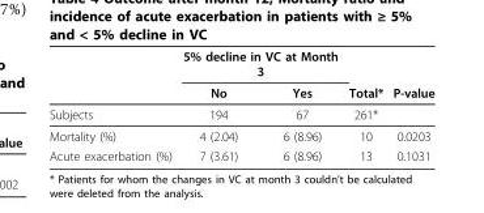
<table><thead><tr><td rowspan="2"></td><td colspan="2">5% decline in VC at Month 3</td><td rowspan="2">Total*</td><td rowspan="2">P-value</td></tr><tr><td>No</td><td>Yes</td></tr></thead><tbody><tr><td>Subjects</td><td>194</td><td>67</td><td>261*</td><td></td></tr><tr><td>Mortality (%)</td><td>4 (2.04)</td><td>6 (8.96)</td><td>10</td><td>0.0203</td></tr><tr><td>Acute exacerbation (%)</td><td>7 (3.61)</td><td>6 (8.96)</td><td>13</td><td>0.1031</td></tr></tbody></table>